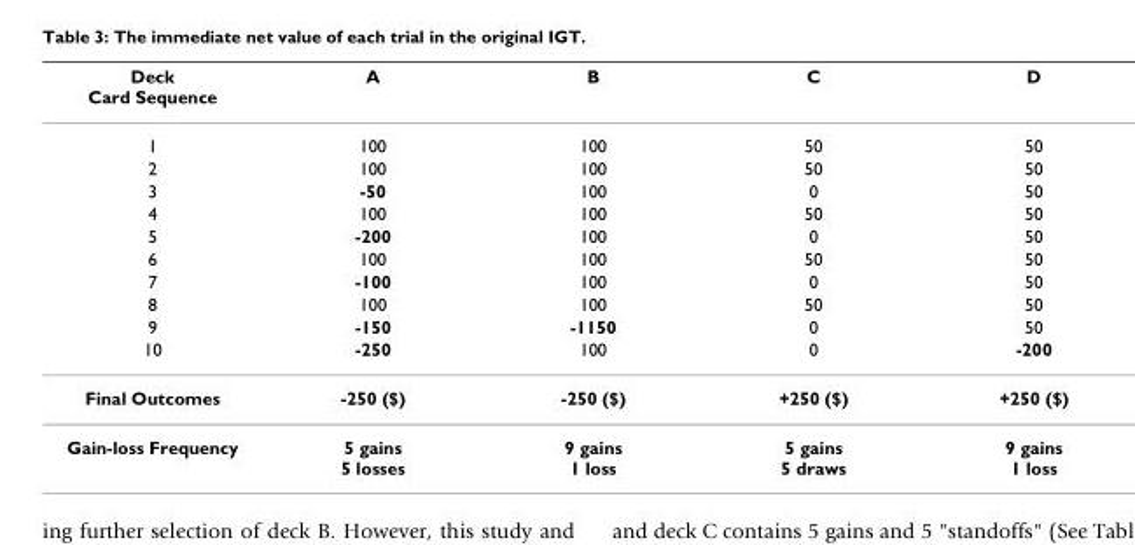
<table><thead><tr><td>Deck Card Sequence</td><td>A</td><td>B</td><td>C</td><td>D</td></tr></thead><tbody><tr><td>1</td><td>100</td><td>100</td><td>50</td><td>50</td></tr><tr><td>2</td><td>100</td><td>100</td><td>50</td><td>50</td></tr><tr><td>3</td><td>-50</td><td>100</td><td>0</td><td>50</td></tr><tr><td>4</td><td>100</td><td>100</td><td>50</td><td>50</td></tr><tr><td>5</td><td>-200</td><td>100</td><td>0</td><td>50</td></tr><tr><td>6</td><td>100</td><td>100</td><td>50</td><td>50</td></tr><tr><td>7</td><td>-100</td><td>100</td><td>0</td><td>50</td></tr><tr><td>8</td><td>100</td><td>100</td><td>50</td><td>50</td></tr><tr><td>9</td><td>-150</td><td>-1150</td><td>0</td><td>50</td></tr><tr><td>10</td><td>-250</td><td>100</td><td>0</td><td>-200</td></tr><tr><td>Final Outcomes</td><td>-250 ($)</td><td>-250 ($)</td><td>+250 ($)</td><td>+250 ($)</td></tr><tr><td>Gain-loss Frequency</td><td>5 gains 5 losses</td><td>9 gains 1 loss</td><td>5 gains 5 draws</td><td>9 gains 1 loss</td></tr></tbody></table>